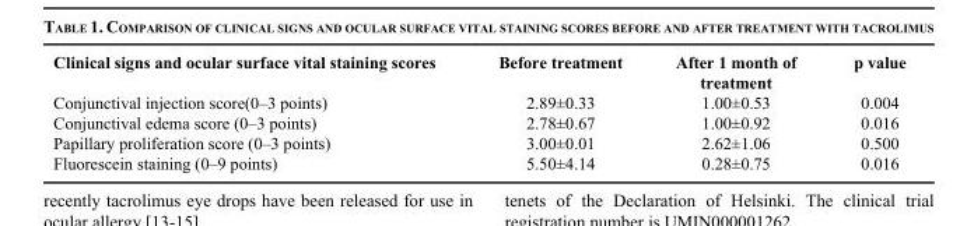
<table><thead><tr><td>Clinical signs and ocular surface vital staining scores</td><td>Before treatment</td><td>After 1 month of treatment</td><td>p value</td></tr></thead><tbody><tr><td>Conjunctival injection score(0–3 points)</td><td>2.89±0.33</td><td>1.00±0.53</td><td>0.004</td></tr><tr><td>Conjunctival edema score (0–3 points)</td><td>2.78±0.67</td><td>1.00±0.92</td><td>0.016</td></tr><tr><td>Papillary proliferation score (0–3 points)</td><td>3.00±0.01</td><td>2.62±1.06</td><td>0.500</td></tr><tr><td>Fluorescein staining (0–9 points)</td><td>5.50±4.14</td><td>0.28±0.75</td><td>0.016</td></tr></tbody></table>